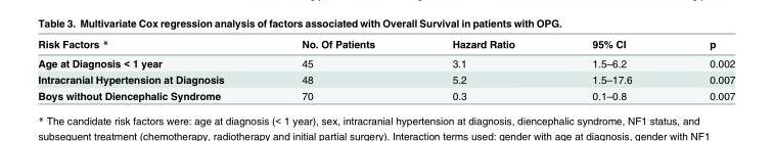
<table><thead><tr><td>Risk Factors *</td><td>No. Of Patients</td><td>Hazard Ratio</td><td>95% CI</td><td>p</td></tr></thead><tbody><tr><td>Age at Diagnosis &lt; 1 year</td><td>45</td><td>3.1</td><td>1.5–6.2</td><td>0.002</td></tr><tr><td>Intracranial Hypertension at Diagnosis</td><td>48</td><td>5.2</td><td>1.5–17.6</td><td>0.007</td></tr><tr><td>Boys without Diencephalic Syndrome</td><td>70</td><td>0.3</td><td>0.1–0.8</td><td>0.007</td></tr></tbody></table>